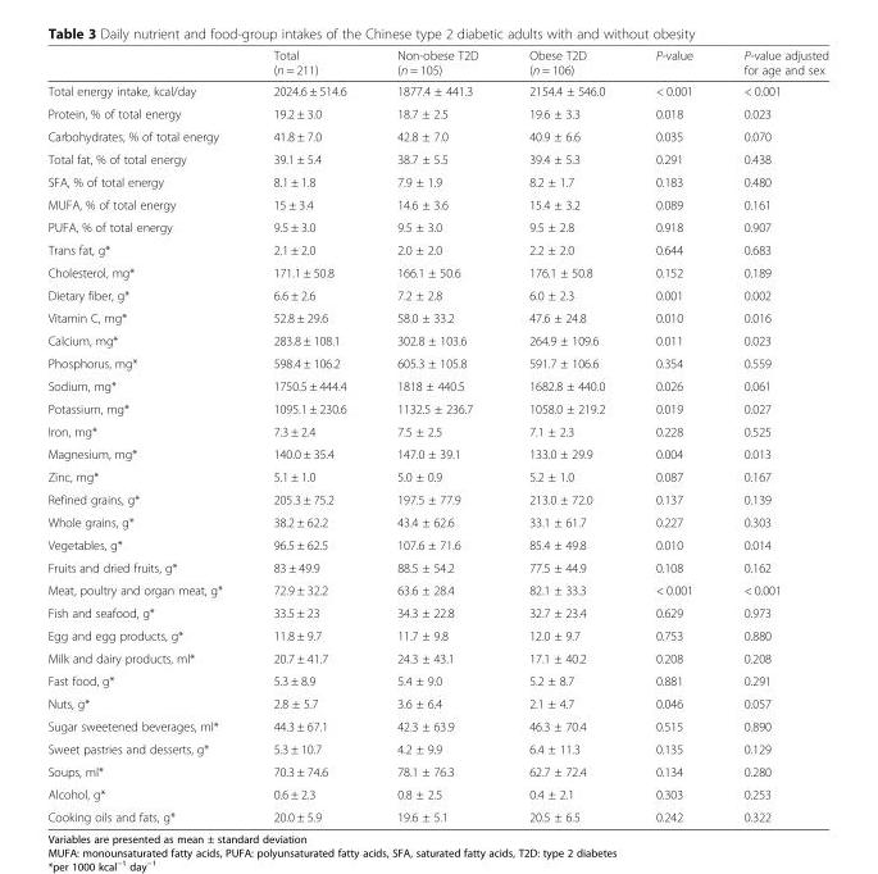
<table><thead><tr><td></td><td>Total (n = 211)</td><td>Non-obese T2D (n = 105)</td><td>Obese T2D (n = 106)</td><td>P-value</td><td>P-value adjusted for age and sex</td></tr></thead><tbody><tr><td>Total energy intake, kcal/day</td><td>2024.6 ± 514.6</td><td>1877.4 ± 441.3</td><td>2154.4 ± 546.0</td><td>&lt; 0.001</td><td>&lt; 0.001</td></tr><tr><td>Protein, % of total energy</td><td>19.2 ± 3.0</td><td>18.7 ± 2.5</td><td>19.6 ± 3.3</td><td>0.018</td><td>0.023</td></tr><tr><td>Carbohydrates, % of total energy</td><td>41.8 ± 7.0</td><td>42.8 ± 7.0</td><td>40.9 ± 6.6</td><td>0.035</td><td>0.070</td></tr><tr><td>Total fat, % of total energy</td><td>39.1 ± 5.4</td><td>38.7 ± 5.5</td><td>39.4 ± 5.3</td><td>0.291</td><td>0.438</td></tr><tr><td>SFA, % of total energy</td><td>8.1 ± 1.8</td><td>7.9 ± 1.9</td><td>8.2 ± 1.7</td><td>0.183</td><td>0.480</td></tr><tr><td>MUFA, % of total energy</td><td>15 ± 3.4</td><td>14.6 ± 3.6</td><td>15.4 ± 3.2</td><td>0.089</td><td>0.161</td></tr><tr><td>PUFA, % of total energy</td><td>9.5 ± 3.0</td><td>9.5 ± 3.0</td><td>9.5 ± 2.8</td><td>0.918</td><td>0.907</td></tr><tr><td>Trans fat, g*</td><td>2.1 ± 2.0</td><td>2.0 ± 2.0</td><td>2.2 ± 2.0</td><td>0.644</td><td>0.683</td></tr><tr><td>Cholesterol, mg*</td><td>171.1 ± 50.8</td><td>166.1 ± 50.6</td><td>176.1 ± 50.8</td><td>0.152</td><td>0.189</td></tr><tr><td>Dietary fiber, g*</td><td>6.6 ± 2.6</td><td>7.2 ± 2.8</td><td>6.0 ± 2.3</td><td>0.001</td><td>0.002</td></tr><tr><td>Vitamin C, mg*</td><td>52.8 ± 29.6</td><td>58.0 ± 33.2</td><td>47.6 ± 24.8</td><td>0.010</td><td>0.016</td></tr><tr><td>Calcium, mg*</td><td>283.8 ± 108.1</td><td>302.8 ± 103.6</td><td>264.9 ± 109.6</td><td>0.011</td><td>0.023</td></tr><tr><td>Phosphorus, mg*</td><td>598.4 ± 106.2</td><td>605.3 ± 105.8</td><td>591.7 ± 106.6</td><td>0.354</td><td>0.559</td></tr><tr><td>Sodium, mg*</td><td>1750.5 ± 444.4</td><td>1818 ± 440.5</td><td>1682.8 ± 440.0</td><td>0.026</td><td>0.061</td></tr><tr><td>Potassium, mg*</td><td>1095.1 ± 230.6</td><td>1132.5 ± 236.7</td><td>1058.0 ± 219.2</td><td>0.019</td><td>0.027</td></tr><tr><td>Iron, mg*</td><td>7.3 ± 2.4</td><td>7.5 ± 2.5</td><td>7.1 ± 2.3</td><td>0.228</td><td>0.525</td></tr><tr><td>Magnesium, mg*</td><td>140.0 ± 35.4</td><td>147.0 ± 39.1</td><td>133.0 ± 29.9</td><td>0.004</td><td>0.013</td></tr><tr><td>Zinc, mg*</td><td>5.1 ± 1.0</td><td>5.0 ± 0.9</td><td>5.2 ± 1.0</td><td>0.087</td><td>0.167</td></tr><tr><td>Refined grains, g*</td><td>205.3 ± 75.2</td><td>197.5 ± 77.9</td><td>213.0 ± 72.0</td><td>0.137</td><td>0.139</td></tr><tr><td>Whole grains, g*</td><td>38.2 ± 62.2</td><td>43.4 ± 62.6</td><td>33.1 ± 61.7</td><td>0.227</td><td>0.303</td></tr><tr><td>Vegetables, g*</td><td>96.5 ± 62.5</td><td>107.6 ± 71.6</td><td>85.4 ± 49.8</td><td>0.010</td><td>0.014</td></tr><tr><td>Fruits and dried fruits, g*</td><td>83 ± 49.9</td><td>88.5 ± 54.2</td><td>77.5 ± 44.9</td><td>0.108</td><td>0.162</td></tr><tr><td>Meat, poultry and organ meat, g*</td><td>72.9 ± 32.2</td><td>63.6 ± 28.4</td><td>82.1 ± 33.3</td><td>&lt; 0.001</td><td>&lt; 0.001</td></tr><tr><td>Fish and seafood, g*</td><td>33.5 ± 23</td><td>34.3 ± 22.8</td><td>32.7 ± 23.4</td><td>0.629</td><td>0.973</td></tr><tr><td>Egg and egg products, g*</td><td>11.8 ± 9.7</td><td>11.7 ± 9.8</td><td>12.0 ± 9.7</td><td>0.753</td><td>0.880</td></tr><tr><td>Milk and dairy products, ml*</td><td>20.7 ± 41.7</td><td>24.3 ± 43.1</td><td>17.1 ± 40.2</td><td>0.208</td><td>0.208</td></tr><tr><td>Fast food, g*</td><td>5.3 ± 8.9</td><td>5.4 ± 9.0</td><td>5.2 ± 8.7</td><td>0.881</td><td>0.291</td></tr><tr><td>Nuts, g*</td><td>2.8 ± 5.7</td><td>3.6 ± 6.4</td><td>2.1 ± 4.7</td><td>0.046</td><td>0.057</td></tr><tr><td>Sugar sweetened beverages, ml*</td><td>44.3 ± 67.1</td><td>42.3 ± 63.9</td><td>46.3 ± 70.4</td><td>0.515</td><td>0.890</td></tr><tr><td>Sweet pastries and desserts, g*</td><td>5.3 ± 10.7</td><td>4.2 ± 9.9</td><td>6.4 ± 11.3</td><td>0.135</td><td>0.129</td></tr><tr><td>Soups, ml*</td><td>70.3 ± 74.6</td><td>78.1 ± 76.3</td><td>62.7 ± 72.4</td><td>0.134</td><td>0.280</td></tr><tr><td>Alcohol, g*</td><td>0.6 ± 2.3</td><td>0.8 ± 2.5</td><td>0.4 ± 2.1</td><td>0.303</td><td>0.253</td></tr><tr><td>Cooking oils and fats, g*</td><td>20.0 ± 5.9</td><td>19.6 ± 5.1</td><td>20.5 ± 6.5</td><td>0.242</td><td>0.322</td></tr></tbody></table>